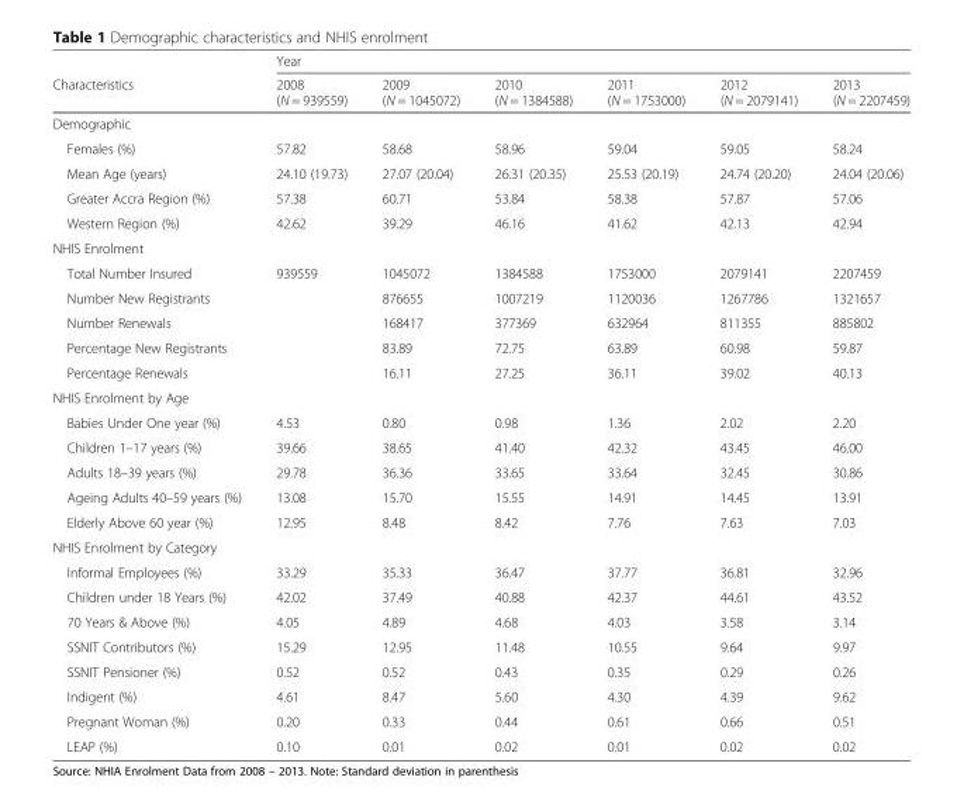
<table><thead><tr><td rowspan="2">Characteristics</td><td colspan="6">Year</td></tr><tr><td>2008 (N = 939559)</td><td>2009 (N = 1045072)</td><td>2010 (N = 1384588)</td><td>2011 (N = 1753000)</td><td>2012 (N = 2079141)</td><td>2013 (N = 2207459)</td></tr></thead><tbody><tr><td colspan="7">Demographic</td></tr><tr><td>Females (%)</td><td>57.82</td><td>58.68</td><td>58.96</td><td>59.04</td><td>59.05</td><td>58.24</td></tr><tr><td>Mean Age (years)</td><td>24.10 (19.73)</td><td>27.07 (20.04)</td><td>26.31 (20.35)</td><td>25.53 (20.19)</td><td>24.74 (20.20)</td><td>24.04 (20.06)</td></tr><tr><td>Greater Accra Region (%)</td><td>57.38</td><td>60.71</td><td>53.84</td><td>58.38</td><td>57.87</td><td>57.06</td></tr><tr><td>Western Region (%)</td><td>42.62</td><td>39.29</td><td>46.16</td><td>41.62</td><td>42.13</td><td>42.94</td></tr><tr><td colspan="7">NHIS Enrolment</td></tr><tr><td>Total Number Insured</td><td>939559</td><td>1045072</td><td>1384588</td><td>1753000</td><td>2079141</td><td>2207459</td></tr><tr><td>Number New Registrants</td><td></td><td>876655</td><td>1007219</td><td>1120036</td><td>1267786</td><td>1321657</td></tr><tr><td>Number Renewals</td><td></td><td>168417</td><td>377369</td><td>632964</td><td>811355</td><td>885802</td></tr><tr><td>Percentage New Registrants</td><td></td><td>83.89</td><td>72.75</td><td>63.89</td><td>60.98</td><td>59.87</td></tr><tr><td>Percentage Renewals</td><td></td><td>16.11</td><td>27.25</td><td>36.11</td><td>39.02</td><td>40.13</td></tr><tr><td colspan="7">NHIS Enrolment by Age</td></tr><tr><td>Babies Under One year (%)</td><td>4.53</td><td>0.80</td><td>0.98</td><td>1.36</td><td>2.02</td><td>2.20</td></tr><tr><td>Children 1–17 years (%)</td><td>39.66</td><td>38.65</td><td>41.40</td><td>42.32</td><td>43.45</td><td>46.00</td></tr><tr><td>Adults 18–39 years (%)</td><td>29.78</td><td>36.36</td><td>33.65</td><td>33.64</td><td>32.45</td><td>30.86</td></tr><tr><td>Ageing Adults 40–59 years (%)</td><td>13.08</td><td>15.70</td><td>15.55</td><td>14.91</td><td>14.45</td><td>13.91</td></tr><tr><td>Elderly Above 60 year (%)</td><td>12.95</td><td>8.48</td><td>8.42</td><td>7.76</td><td>7.63</td><td>7.03</td></tr><tr><td colspan="7">NHIS Enrolment by Category</td></tr><tr><td>Informal Employees (%)</td><td>33.29</td><td>35.33</td><td>36.47</td><td>37.77</td><td>36.81</td><td>32.96</td></tr><tr><td>Children under 18 Years (%)</td><td>42.02</td><td>37.49</td><td>40.88</td><td>42.37</td><td>44.61</td><td>43.52</td></tr><tr><td>70 Years &amp; Above (%)</td><td>4.05</td><td>4.89</td><td>4.68</td><td>4.03</td><td>3.58</td><td>3.14</td></tr><tr><td>SSNIT Contributors (%)</td><td>15.29</td><td>12.95</td><td>11.48</td><td>10.55</td><td>9.64</td><td>9.97</td></tr><tr><td>SSNIT Pensioner (%)</td><td>0.52</td><td>0.52</td><td>0.43</td><td>0.35</td><td>0.29</td><td>0.26</td></tr><tr><td>Indigent (%)</td><td>4.61</td><td>8.47</td><td>5.60</td><td>4.30</td><td>4.39</td><td>9.62</td></tr><tr><td>Pregnant Woman (%)</td><td>0.20</td><td>0.33</td><td>0.44</td><td>0.61</td><td>0.66</td><td>0.51</td></tr><tr><td>LEAP (%)</td><td>0.10</td><td>0.01</td><td>0.02</td><td>0.01</td><td>0.02</td><td>0.02</td></tr></tbody></table>